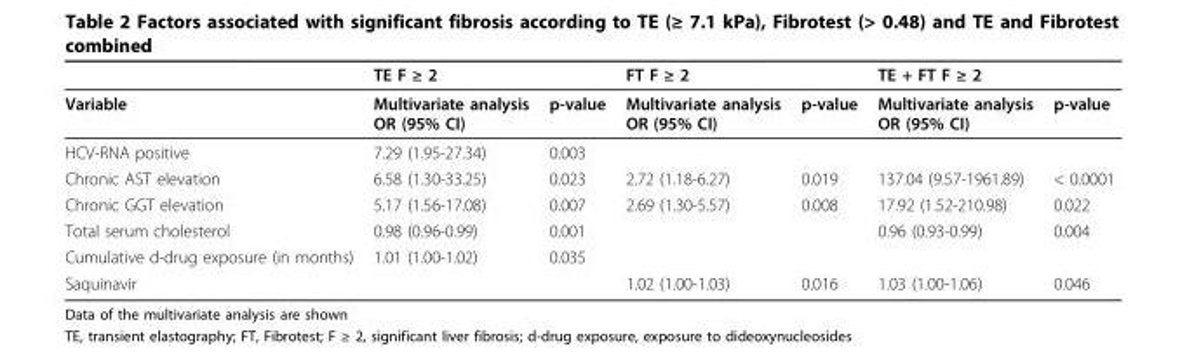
<table><thead><tr><td></td><td>TE F ≥ 2</td><td></td><td>FT F ≥ 2</td><td></td><td>TE + FT F ≥ 2</td><td></td></tr></thead><tbody><tr><td>Variable</td><td>Multivariate analysis OR (95% CI)</td><td>p-value</td><td>Multivariate analysis OR (95% CI)</td><td>p-value</td><td>Multivariate analysis OR (95% CI)</td><td>p-value</td></tr><tr><td>HCV-RNA positive</td><td>7.29 (1.95-27.34)</td><td>0.003</td><td></td><td></td><td></td><td></td></tr><tr><td>Chronic AST elevation</td><td>6.58 (1.30-33.25)</td><td>0.023</td><td>2.72 (1.18-6.27)</td><td>0.019</td><td>137.04 (9.57-1961.89)</td><td>&lt; 0.0001</td></tr><tr><td>Chronic GGT elevation</td><td>5.17 (1.56-17.08)</td><td>0.007</td><td>2.69 (1.30-5.57)</td><td>0.008</td><td>17.92 (1.52-210.98)</td><td>0.022</td></tr><tr><td>Total serum cholesterol</td><td>0.98 (0.96-0.99)</td><td>0.001</td><td></td><td></td><td>0.96 (0.93-0.99)</td><td>0.004</td></tr><tr><td>Cumulative d-drug exposure (in months)</td><td>1.01 (1.00-1.02)</td><td>0.035</td><td></td><td></td><td></td><td></td></tr><tr><td>Saquinavir</td><td></td><td></td><td>1.02 (1.00-1.03)</td><td>0.016</td><td>1.03 (1.00-1.06)</td><td>0.046</td></tr></tbody></table>